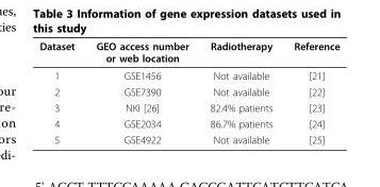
<table><thead><tr><td>Dataset</td><td>GEO access number or web location</td><td>Radiotherapy</td><td>Reference</td></tr></thead><tbody><tr><td>1</td><td>GSE1456</td><td>Not available</td><td>[21]</td></tr><tr><td>2</td><td>GSE7390</td><td>Not available</td><td>[22]</td></tr><tr><td>3</td><td>NKI [26]</td><td>82.4% patients</td><td>[23]</td></tr><tr><td>4</td><td>GSE2034</td><td>86.7% patients</td><td>[24]</td></tr><tr><td>5</td><td>GSE4922</td><td>Not available</td><td>[25]</td></tr></tbody></table>